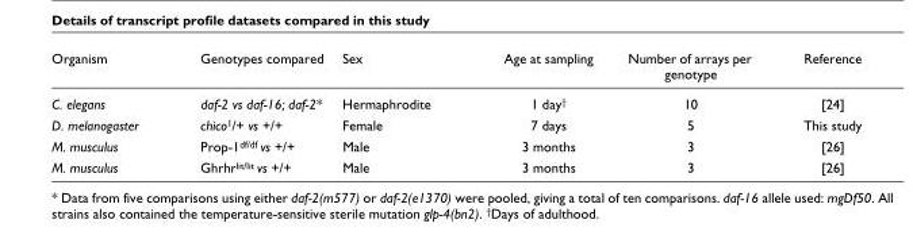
<table><thead><tr><td>Organism</td><td>Genotypes compared</td><td>Sex</td><td>Age at sampling</td><td>Number of arrays per genotype</td><td>Reference</td></tr></thead><tbody><tr><td>C. elegans</td><td>daf-2 vs daf-16; daf-2*</td><td>Hermaphrodite</td><td>1 day<sup>†</sup></td><td>10</td><td>[24]</td></tr><tr><td>D. melanogaster</td><td>chico<sup>1</sup>/+ vs +/+</td><td>Female</td><td>7 days</td><td>5</td><td>This study</td></tr><tr><td>M. musculus</td><td>Prop-1<sup>df/df</sup> vs +/+</td><td>Male</td><td>3 months</td><td>3</td><td>[26]</td></tr><tr><td>M. musculus</td><td>Ghrhr<sup>lit/lit</sup> vs +/+</td><td>Male</td><td>3 months</td><td>3</td><td>[26]</td></tr></tbody></table>